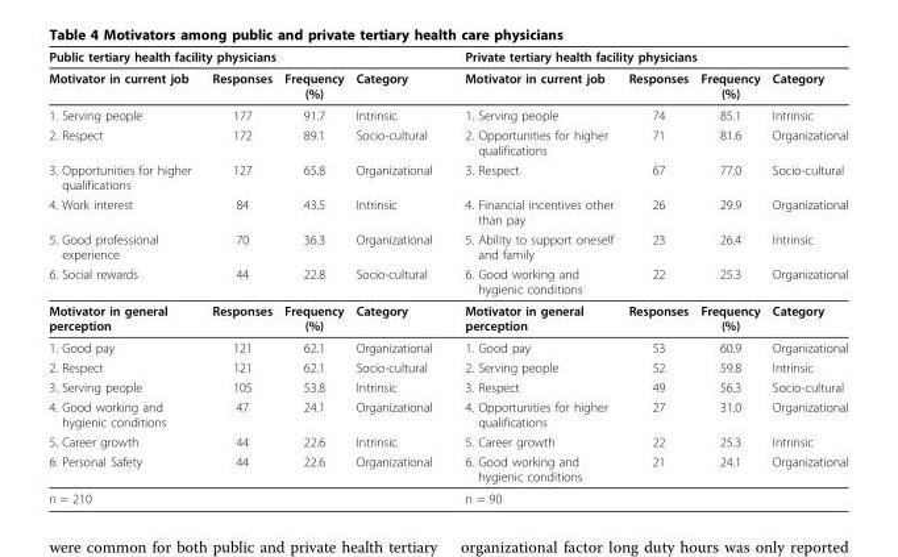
<table><thead><tr><td colspan="4">Public tertiary health facility physicians</td><td colspan="4">Private tertiary health facility physicians</td></tr><tr><td>Motivator in current job</td><td>Responses</td><td>Frequency (%)</td><td>Category</td><td>Motivator in current job</td><td>Responses</td><td>Frequency (%)</td><td>Category</td></tr></thead><tbody><tr><td>1. Serving people</td><td>177</td><td>91.7</td><td>Intrinsic</td><td>1. Serving people</td><td>74</td><td>85.1</td><td>Intrinsic</td></tr><tr><td>2. Respect</td><td>172</td><td>89.1</td><td>Socio-cultural</td><td>2. Opportunities for higher qualifications</td><td>71</td><td>81.6</td><td>Organizational</td></tr><tr><td>3. Opportunities for higher qualifications</td><td>127</td><td>65.8</td><td>Organizational</td><td>3. Respect</td><td>67</td><td>77.0</td><td>Socio-cultural</td></tr><tr><td>4. Work interest</td><td>84</td><td>43.5</td><td>Intrinsic</td><td>4. Financial incentives other than pay</td><td>26</td><td>29.9</td><td>Organizational</td></tr><tr><td>5. Good professional experience</td><td>70</td><td>36.3</td><td>Organizational</td><td>5. Ability to support oneself and family</td><td>23</td><td>26.4</td><td>Intrinsic</td></tr><tr><td>6. Social rewards</td><td>44</td><td>22.8</td><td>Socio-cultural</td><td>6. Good working and hygienic conditions</td><td>22</td><td>25.3</td><td>Organizational</td></tr><tr><td>Motivator in general perception</td><td>Responses</td><td>Frequency (%)</td><td>Category</td><td>Motivator in general perception</td><td>Responses</td><td>Frequency (%)</td><td>Category</td></tr><tr><td>1. Good pay</td><td>121</td><td>62.1</td><td>Organizational</td><td>1. Good pay</td><td>53</td><td>60.9</td><td>Organizational</td></tr><tr><td>2. Respect</td><td>121</td><td>62.1</td><td>Socio-cultural</td><td>2. Serving people</td><td>52</td><td>59.8</td><td>Intrinsic</td></tr><tr><td>3. Serving people</td><td>105</td><td>53.8</td><td>Intrinsic</td><td>3. Respect</td><td>49</td><td>56.3</td><td>Socio-cultural</td></tr><tr><td>4. Good working and hygienic conditions</td><td>47</td><td>24.1</td><td>Organizational</td><td>4. Opportunities for higher qualifications</td><td>27</td><td>31.0</td><td>Organizational</td></tr><tr><td>5. Career growth</td><td>44</td><td>22.6</td><td>Intrinsic</td><td>5. Career growth</td><td>22</td><td>25.3</td><td>Intrinsic</td></tr><tr><td>6. Personal Safety</td><td>44</td><td>22.6</td><td>Organizational</td><td>6. Good working and hygienic conditions</td><td>21</td><td>24.1</td><td>Organizational</td></tr><tr><td>n = 210</td><td></td><td></td><td></td><td>n = 90</td><td></td><td></td><td></td></tr></tbody></table>